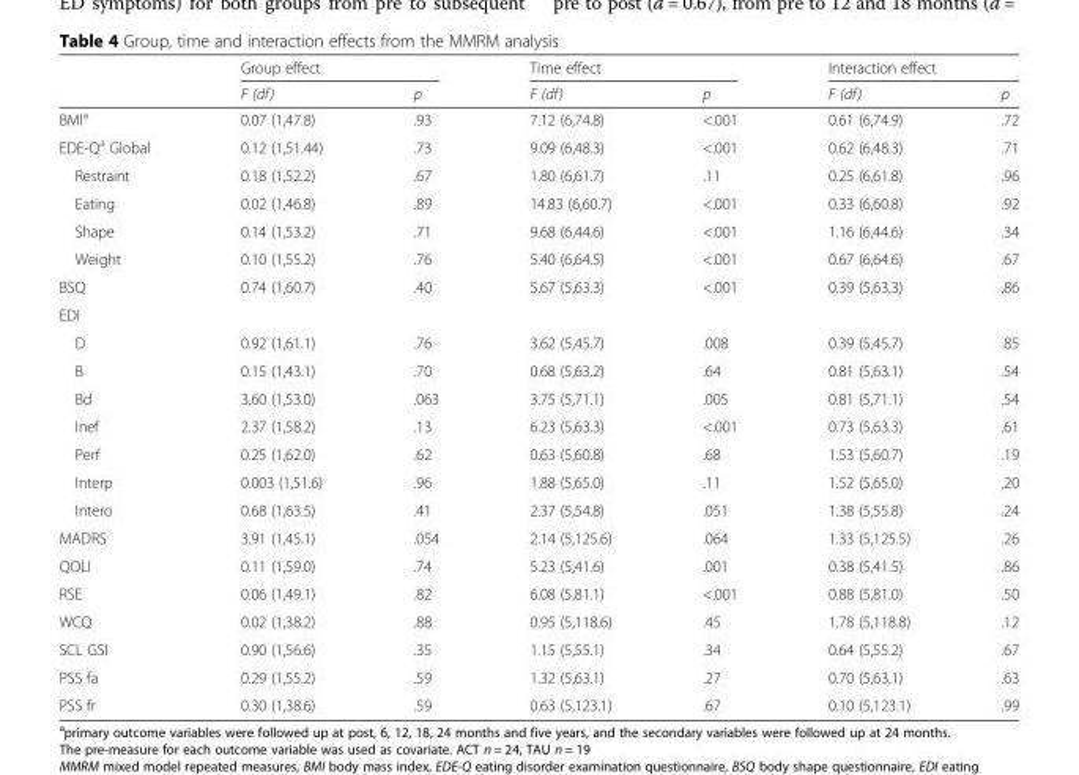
<table><thead><tr><td rowspan="2"></td><td colspan="2">Group effect</td><td colspan="2">Time effect</td><td colspan="2">Interaction effect</td></tr><tr><td>F (df)</td><td>p</td><td>F (df)</td><td>p</td><td>F (df)</td><td>p</td></tr></thead><tbody><tr><td>BMI<sup>a</sup></td><td>0.07 (1,47.8)</td><td>.93</td><td>7.12 (6,74.8)</td><td>&lt;.001</td><td>0.61 (6,74.9)</td><td>.72</td></tr><tr><td>EDE-Q<sup>a</sup> Global</td><td>0.12 (1,51.44)</td><td>.73</td><td>9.09 (6,48.3)</td><td>&lt;.001</td><td>0.62 (6,48.3)</td><td>.71</td></tr><tr><td>Restraint</td><td>0.18 (1,52.2)</td><td>.67</td><td>1.80 (6,61.7)</td><td>.11</td><td>0.25 (6,61.8)</td><td>.96</td></tr><tr><td>Eating</td><td>0.02 (1,46.8)</td><td>.89</td><td>14.83 (6,60.7)</td><td>&lt;.001</td><td>0.33 (6,60.8)</td><td>.92</td></tr><tr><td>Shape</td><td>0.14 (1,53.2)</td><td>.71</td><td>9.68 (6,44.6)</td><td>&lt;.001</td><td>1.16 (6,44.6)</td><td>.34</td></tr><tr><td>Weight</td><td>0.10 (1,55.2)</td><td>.76</td><td>5.40 (6,64.5)</td><td>&lt;.001</td><td>0.67 (6,64.6)</td><td>.67</td></tr><tr><td>BSQ</td><td>0.74 (1,60.7)</td><td>.40</td><td>5.67 (5,63.3)</td><td>&lt;.001</td><td>0.39 (5,63.3)</td><td>.86</td></tr><tr><td colspan="7">EDI</td></tr><tr><td>D</td><td>0.92 (1,61.1)</td><td>.76</td><td>3.62 (5,45.7)</td><td>.008</td><td>0.39 (5,45.7)</td><td>.85</td></tr><tr><td>B</td><td>0.15 (1,43.1)</td><td>.70</td><td>0.68 (5,63.2)</td><td>.64</td><td>0.81 (5,63.1)</td><td>.54</td></tr><tr><td>Bd</td><td>3.60 (1,53.0)</td><td>.063</td><td>3.75 (5,71.1)</td><td>.005</td><td>0.81 (5,71.1)</td><td>.54</td></tr><tr><td>Inef</td><td>2.37 (1,58.2)</td><td>.13</td><td>6.23 (5,63.3)</td><td>&lt;.001</td><td>0.73 (5,63.3)</td><td>.61</td></tr><tr><td>Perf</td><td>0.25 (1,62.0)</td><td>.62</td><td>0.63 (5,60.8)</td><td>.68</td><td>1.53 (5,60.7)</td><td>.19</td></tr><tr><td>Interp</td><td>0.003 (1,51.6)</td><td>.96</td><td>1.88 (5,65.0)</td><td>.11</td><td>1.52 (5,65.0)</td><td>.20</td></tr><tr><td>Intero</td><td>0.68 (1,63.5)</td><td>.41</td><td>2.37 (5,54.8)</td><td>.051</td><td>1.38 (5,55.8)</td><td>.24</td></tr><tr><td>MADRS</td><td>3.91 (1,45.1)</td><td>.054</td><td>2.14 (5,125.6)</td><td>.064</td><td>1.33 (5,125.5)</td><td>.26</td></tr><tr><td>QOLI</td><td>0.11 (1,59.0)</td><td>.74</td><td>5.23 (5,41.6)</td><td>.001</td><td>0.38 (5,41.5)</td><td>.86</td></tr><tr><td>RSE</td><td>0.06 (1,49.1)</td><td>.82</td><td>6.08 (5,81.1)</td><td>&lt;.001</td><td>0.88 (5,81.0)</td><td>.50</td></tr><tr><td>WCQ</td><td>0.02 (1,38.2)</td><td>.88</td><td>0.95 (5,118.6)</td><td>.45</td><td>1.78 (5,118.8)</td><td>.12</td></tr><tr><td>SCL GSI</td><td>0.90 (1,56.6)</td><td>.35</td><td>1.15 (5,55.1)</td><td>.34</td><td>0.64 (5,55.2)</td><td>.67</td></tr><tr><td>PSS fa</td><td>0.29 (1,55.2)</td><td>.59</td><td>1.32 (5,63.1)</td><td>.27</td><td>0.70 (5,63.1)</td><td>.63</td></tr><tr><td>PSS fr</td><td>0.30 (1,38.6)</td><td>.59</td><td>0.63 (5,123.1)</td><td>.67</td><td>0.10 (5,123.1)</td><td>.99</td></tr></tbody></table>